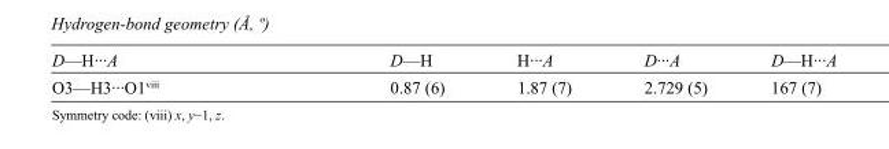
<table><tbody><tr><td>D—H···A</td><td>D—H</td><td>H···A</td><td>D···A</td><td>D—H···A</td></tr><tr><td>O3—H3···O1<sup>viii</sup></td><td>0.87 (6)</td><td>1.87 (7)</td><td>2.729 (5)</td><td>167 (7)</td></tr></tbody></table>